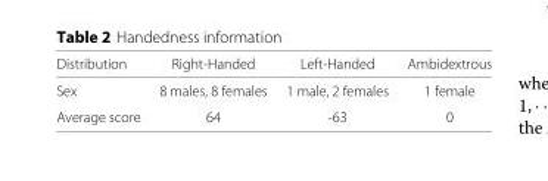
<table><thead><tr><td>Distribution</td><td>Right-Handed</td><td>Left-Handed</td><td>Ambidextrous</td></tr></thead><tbody><tr><td>Sex</td><td>8 males, 8 females</td><td>1 male, 2 females</td><td>1 female</td></tr><tr><td>Average score</td><td>64</td><td>-63</td><td>0</td></tr></tbody></table>